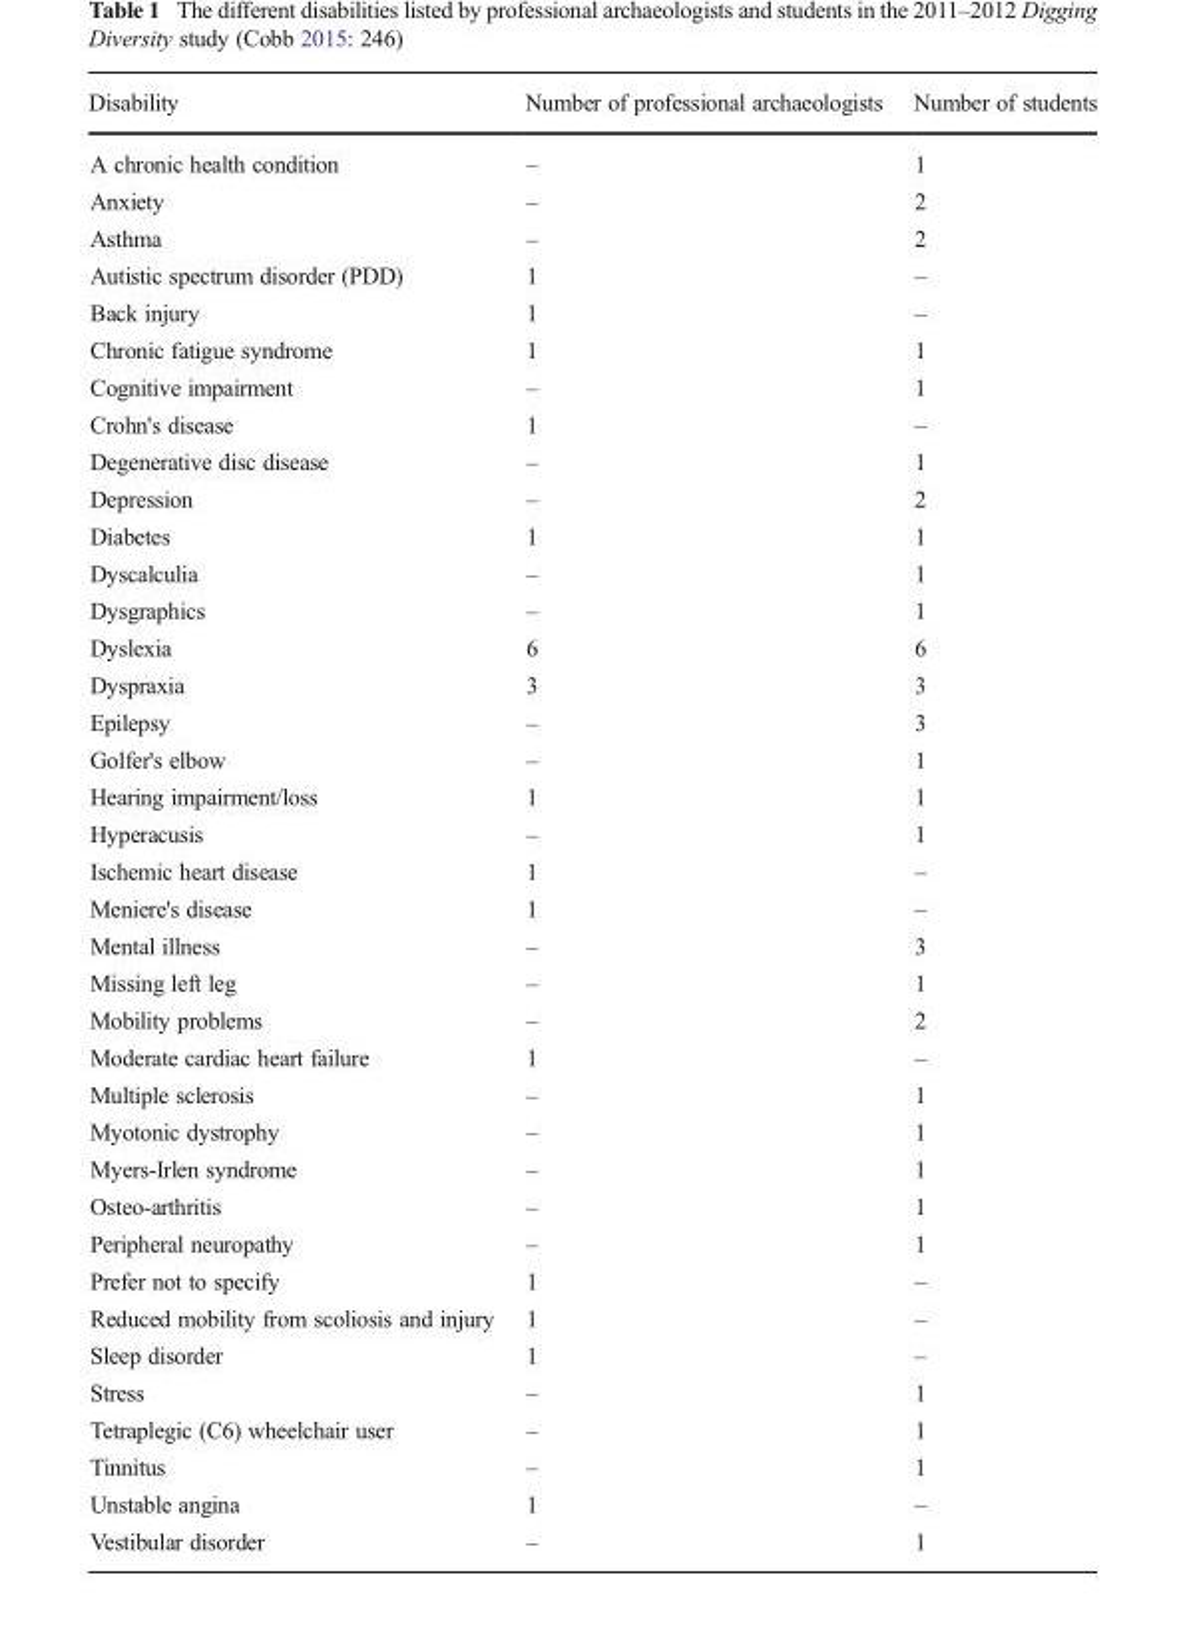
<table><thead><tr><td>Disability</td><td>Number of professional archaeologists</td><td>Number of students</td></tr></thead><tbody><tr><td>A chronic health condition</td><td>–</td><td>1</td></tr><tr><td>Anxiety</td><td>–</td><td>2</td></tr><tr><td>Asthma</td><td>–</td><td>2</td></tr><tr><td>Autistic spectrum disorder (PDD)</td><td>1</td><td>–</td></tr><tr><td>Back injury</td><td>1</td><td>–</td></tr><tr><td>Chronic fatigue syndrome</td><td>1</td><td>1</td></tr><tr><td>Cognitive impairment</td><td>–</td><td>1</td></tr><tr><td>Crohn&#x27;s disease</td><td>1</td><td>–</td></tr><tr><td>Degenerative disc disease</td><td>–</td><td>1</td></tr><tr><td>Depression</td><td>–</td><td>2</td></tr><tr><td>Diabetes</td><td>1</td><td>1</td></tr><tr><td>Dyscalculia</td><td>–</td><td>1</td></tr><tr><td>Dysgraphics</td><td>–</td><td>1</td></tr><tr><td>Dyslexia</td><td>6</td><td>6</td></tr><tr><td>Dyspraxia</td><td>3</td><td>3</td></tr><tr><td>Epilepsy</td><td>–</td><td>3</td></tr><tr><td>Golfer&#x27;s elbow</td><td>–</td><td>1</td></tr><tr><td>Hearing impairment/loss</td><td>1</td><td>1</td></tr><tr><td>Hyperacusis</td><td>–</td><td>1</td></tr><tr><td>Ischemic heart disease</td><td>1</td><td>–</td></tr><tr><td>Meniere&#x27;s disease</td><td>1</td><td>–</td></tr><tr><td>Mental illness</td><td>–</td><td>3</td></tr><tr><td>Missing left leg</td><td>–</td><td>1</td></tr><tr><td>Mobility problems</td><td>–</td><td>2</td></tr><tr><td>Moderate cardiac heart failure</td><td>1</td><td>–</td></tr><tr><td>Multiple sclerosis</td><td>–</td><td>1</td></tr><tr><td>Myotonic dystrophy</td><td>–</td><td>1</td></tr><tr><td>Myers-Irlen syndrome</td><td>–</td><td>1</td></tr><tr><td>Osteo-arthritis</td><td>–</td><td>1</td></tr><tr><td>Peripheral neuropathy</td><td>–</td><td>1</td></tr><tr><td>Prefer not to specify</td><td>1</td><td>–</td></tr><tr><td>Reduced mobility from scoliosis and injury</td><td>1</td><td>–</td></tr><tr><td>Sleep disorder</td><td>1</td><td>–</td></tr><tr><td>Stress</td><td>–</td><td>1</td></tr><tr><td>Tetraplegic (C6) wheelchair user</td><td>–</td><td>1</td></tr><tr><td>Tinnitus</td><td>–</td><td>1</td></tr><tr><td>Unstable angina</td><td>1</td><td>–</td></tr><tr><td>Vestibular disorder</td><td>–</td><td>1</td></tr></tbody></table>